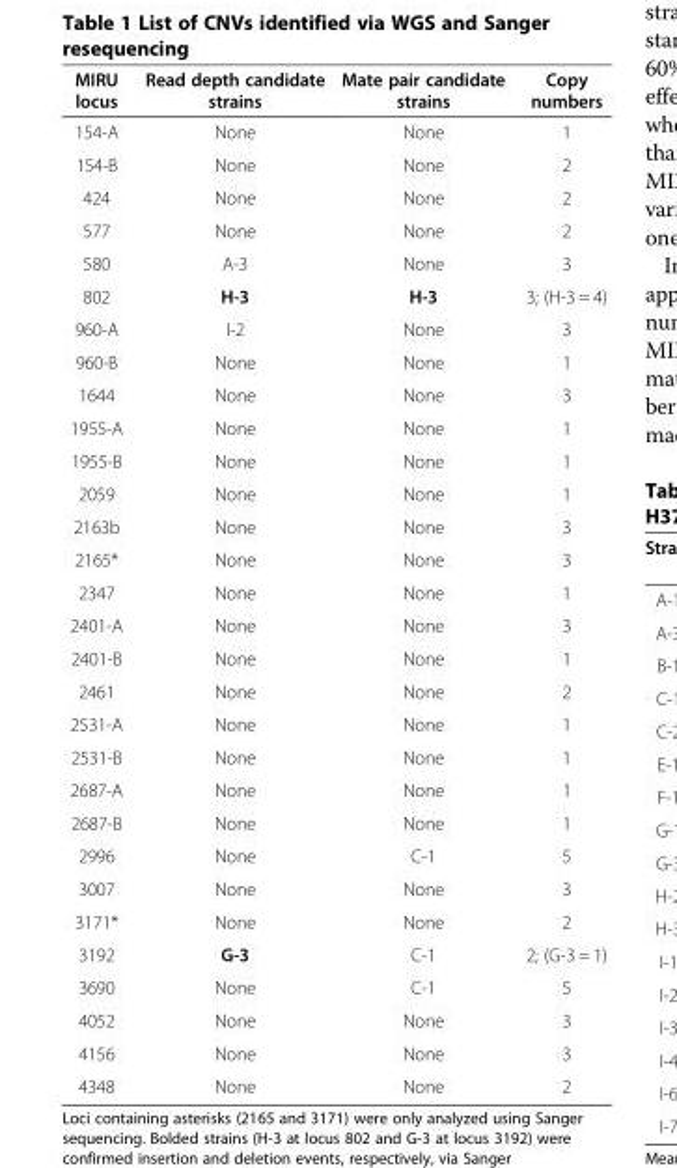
<table><thead><tr><td>MIRU locus</td><td>Read depth candidate strains</td><td>Mate pair candidate strains</td><td>Copy numbers</td></tr></thead><tbody><tr><td>154-A</td><td>None</td><td>None</td><td>1</td></tr><tr><td>154-B</td><td>None</td><td>None</td><td>2</td></tr><tr><td>424</td><td>None</td><td>None</td><td>2</td></tr><tr><td>577</td><td>None</td><td>None</td><td>2</td></tr><tr><td>580</td><td>A-3</td><td>None</td><td>3</td></tr><tr><td>802</td><td>H-3</td><td>H-3</td><td>3; (H-3 = 4)</td></tr><tr><td>960-A</td><td>I-2</td><td>None</td><td>3</td></tr><tr><td>960-B</td><td>None</td><td>None</td><td>1</td></tr><tr><td>1644</td><td>None</td><td>None</td><td>3</td></tr><tr><td>1955-A</td><td>None</td><td>None</td><td>1</td></tr><tr><td>1955-B</td><td>None</td><td>None</td><td>1</td></tr><tr><td>2059</td><td>None</td><td>None</td><td>1</td></tr><tr><td>2163b</td><td>None</td><td>None</td><td>3</td></tr><tr><td>2165*</td><td>None</td><td>None</td><td>3</td></tr><tr><td>2347</td><td>None</td><td>None</td><td>1</td></tr><tr><td>2401-A</td><td>None</td><td>None</td><td>3</td></tr><tr><td>2401-B</td><td>None</td><td>None</td><td>1</td></tr><tr><td>2461</td><td>None</td><td>None</td><td>2</td></tr><tr><td>2531-A</td><td>None</td><td>None</td><td>1</td></tr><tr><td>2531-B</td><td>None</td><td>None</td><td>1</td></tr><tr><td>2687-A</td><td>None</td><td>None</td><td>1</td></tr><tr><td>2687-B</td><td>None</td><td>None</td><td>1</td></tr><tr><td>2996</td><td>None</td><td>C-1</td><td>5</td></tr><tr><td>3007</td><td>None</td><td>None</td><td>3</td></tr><tr><td>3171*</td><td>None</td><td>None</td><td>2</td></tr><tr><td>3192</td><td>G-3</td><td>C-1</td><td>2; (G-3 = 1)</td></tr><tr><td>3690</td><td>None</td><td>C-1</td><td>5</td></tr><tr><td>4052</td><td>None</td><td>None</td><td>3</td></tr><tr><td>4156</td><td>None</td><td>None</td><td>3</td></tr><tr><td>4348</td><td>None</td><td>None</td><td>2</td></tr></tbody></table>